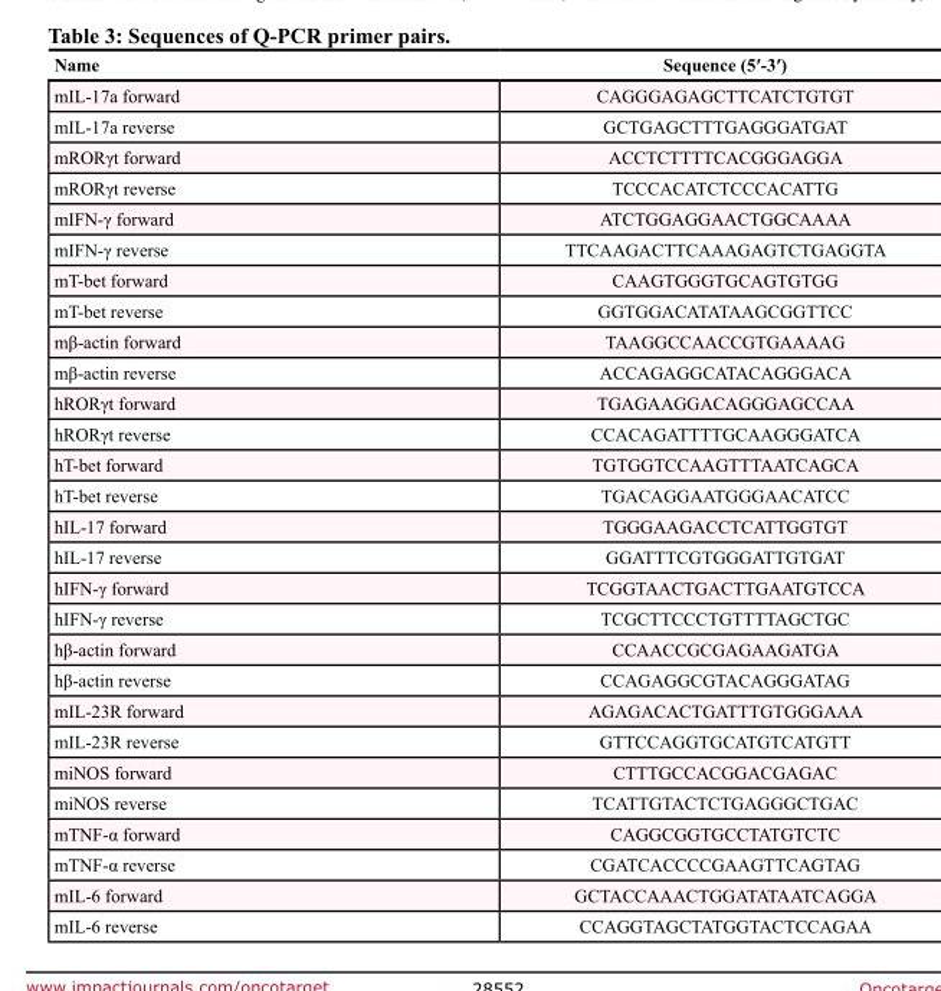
<table><thead><tr><td>Name</td><td>Sequence (5′-3′)</td></tr></thead><tbody><tr><td>mIL-17a forward</td><td>CAGGGAGAGCTTCATCTGTGT</td></tr><tr><td>mIL-17a reverse</td><td>GCTGAGCTTTGAGGGATGAT</td></tr><tr><td>mRORγt forward</td><td>ACCTCTTTTCACGGGAGGA</td></tr><tr><td>mRORγt reverse</td><td>TCCCACATCTCCCACATTG</td></tr><tr><td>mIFN-γ forward</td><td>ATCTGGAGGAACTGGCAAAA</td></tr><tr><td>mIFN-γ reverse</td><td>TTCAAGACTTCAAAGAGTCTGAGGTA</td></tr><tr><td>mT-bet forward</td><td>CAAGTGGGTGCAGTGTGG</td></tr><tr><td>mT-bet reverse</td><td>GGTGGACATATAAGCGGTTCC</td></tr><tr><td>mβ-actin forward</td><td>TAAGGCCAACCGTGAAAAG</td></tr><tr><td>mβ-actin reverse</td><td>ACCAGAGGCATACAGGGACA</td></tr><tr><td>hRORγt forward</td><td>TGAGAAGGACAGGGAGCCAA</td></tr><tr><td>hRORγt reverse</td><td>CCACAGATTTTGCAAGGGATCA</td></tr><tr><td>hT-bet forward</td><td>TGTGGTCCAAGTTTAATCAGCA</td></tr><tr><td>hT-bet reverse</td><td>TGACAGGAATGGGAACATCC</td></tr><tr><td>hIL-17 forward</td><td>TGGGAAGACCTCATTGGTGT</td></tr><tr><td>hIL-17 reverse</td><td>GGATTTCGTGGGATTGTGAT</td></tr><tr><td>hIFN-γ forward</td><td>TCGGTAACTGACTTGAATGTCCA</td></tr><tr><td>hIFN-γ reverse</td><td>TCGCTTCCCTGTTTTAGCTGC</td></tr><tr><td>hβ-actin forward</td><td>CCAACCGCGAGAAGATGA</td></tr><tr><td>hβ-actin reverse</td><td>CCAGAGGCGTACAGGGATAG</td></tr><tr><td>mIL-23R forward</td><td>AGAGACACTGATTTGTGGGAAA</td></tr><tr><td>mIL-23R reverse</td><td>GTTCCAGGTGCATGTCATGTT</td></tr><tr><td>miNOS forward</td><td>CTTTGCCACGGACGAGAC</td></tr><tr><td>miNOS reverse</td><td>TCATTGTACTCTGAGGGCTGAC</td></tr><tr><td>mTNF-α forward</td><td>CAGGCGGTGCCTATGTCTC</td></tr><tr><td>mTNF-α reverse</td><td>CGATCACCCCGAAGTTCAGTAG</td></tr><tr><td>mIL-6 forward</td><td>GCTACCAAACTGGATATAATCAGGA</td></tr><tr><td>mIL-6 reverse</td><td>CCAGGTAGCTATGGTACTCCAGAA</td></tr></tbody></table>